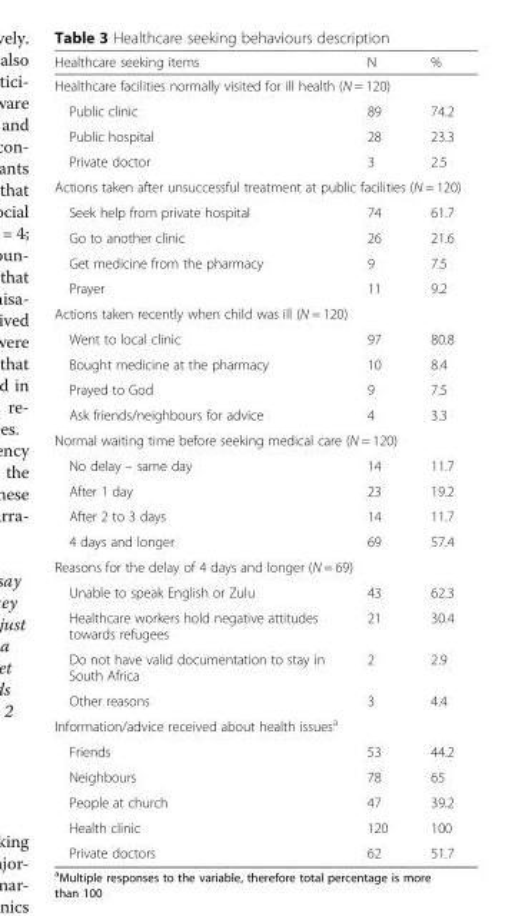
<table><thead><tr><td>Healthcare seeking items</td><td>N</td><td>%</td></tr></thead><tbody><tr><td colspan="3">Healthcare facilities normally visited for ill health (N = 120)</td></tr><tr><td>Public clinic</td><td>89</td><td>74.2</td></tr><tr><td>Public hospital</td><td>28</td><td>23.3</td></tr><tr><td>Private doctor</td><td>3</td><td>2.5</td></tr><tr><td colspan="3">Actions taken after unsuccessful treatment at public facilities (N = 120)</td></tr><tr><td>Seek help from private hospital</td><td>74</td><td>61.7</td></tr><tr><td>Go to another clinic</td><td>26</td><td>21.6</td></tr><tr><td>Get medicine from the pharmacy</td><td>9</td><td>7.5</td></tr><tr><td>Prayer</td><td>11</td><td>9.2</td></tr><tr><td colspan="3">Actions taken recently when child was ill (N = 120)</td></tr><tr><td>Went to local clinic</td><td>97</td><td>80.8</td></tr><tr><td>Bought medicine at the pharmacy</td><td>10</td><td>8.4</td></tr><tr><td>Prayed to God</td><td>9</td><td>7.5</td></tr><tr><td>Ask friends/neighbours for advice</td><td>4</td><td>3.3</td></tr><tr><td colspan="3">Normal waiting time before seeking medical care (N = 120)</td></tr><tr><td>No delay – same day</td><td>14</td><td>11.7</td></tr><tr><td>After 1 day</td><td>23</td><td>19.2</td></tr><tr><td>After 2 to 3 days</td><td>14</td><td>11.7</td></tr><tr><td>4 days and longer</td><td>69</td><td>57.4</td></tr><tr><td colspan="3">Reasons for the delay of 4 days and longer (N = 69)</td></tr><tr><td>Unable to speak English or Zulu</td><td>43</td><td>62.3</td></tr><tr><td>Healthcare workers hold negative attitudes towards refugees</td><td>21</td><td>30.4</td></tr><tr><td>Do not have valid documentation to stay in South Africa</td><td>2</td><td>2.9</td></tr><tr><td>Other reasons</td><td>3</td><td>4.4</td></tr><tr><td colspan="3">Information/advice received about health issues<sup>a</sup></td></tr><tr><td>Friends</td><td>53</td><td>44.2</td></tr><tr><td>Neighbours</td><td>78</td><td>65</td></tr><tr><td>People at church</td><td>47</td><td>39.2</td></tr><tr><td>Health clinic</td><td>120</td><td>100</td></tr><tr><td>Private doctors</td><td>62</td><td>51.7</td></tr></tbody></table>